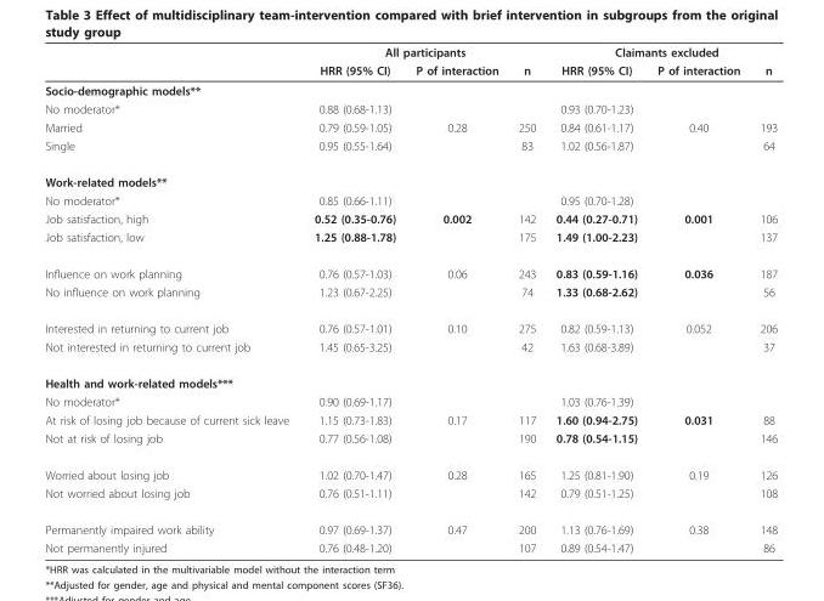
<table><thead><tr><td rowspan="2"></td><td colspan="3">All participants</td><td colspan="3">Claimants excluded</td></tr><tr><td>HRR (95% CI)</td><td>P of interaction</td><td>n</td><td>HRR (95% CI)</td><td>P of interaction</td><td>n</td></tr></thead><tbody><tr><td colspan="7">Socio-demographic models**</td></tr><tr><td>No moderator*</td><td>0.88 (0.68-1.13)</td><td></td><td></td><td>0.93 (0.70-1.23)</td><td></td><td></td></tr><tr><td>Married</td><td>0.79 (0.59-1.05)</td><td>0.28</td><td>250</td><td>0.84 (0.61-1.17)</td><td>0.40</td><td>193</td></tr><tr><td>Single</td><td>0.95 (0.55-1.64)</td><td></td><td>83</td><td>1.02 (0.56-1.87)</td><td></td><td>64</td></tr><tr><td colspan="7">Work-related models**</td></tr><tr><td>No moderator*</td><td>0.85 (0.66-1.11)</td><td></td><td></td><td>0.95 (0.70-1.28)</td><td></td><td></td></tr><tr><td>Job satisfaction, high</td><td>0.52 (0.35-0.76)</td><td>0.002</td><td>142</td><td>0.44 (0.27-0.71)</td><td>0.001</td><td>106</td></tr><tr><td>Job satisfaction, low</td><td>1.25 (0.88-1.78)</td><td></td><td>175</td><td>1.49 (1.00-2.23)</td><td></td><td>137</td></tr><tr><td>Influence on work planning</td><td>0.76 (0.57-1.03)</td><td>0.06</td><td>243</td><td>0.83 (0.59-1.16)</td><td>0.036</td><td>187</td></tr><tr><td>No influence on work planning</td><td>1.23 (0.67-2.25)</td><td></td><td>74</td><td>1.33 (0.68-2.62)</td><td></td><td>56</td></tr><tr><td>Interested in returning to current job</td><td>0.76 (0.57-1.01)</td><td>0.10</td><td>275</td><td>0.82 (0.59-1.13)</td><td>0.052</td><td>206</td></tr><tr><td>Not interested in returning to current job</td><td>1.45 (0.65-3.25)</td><td></td><td>42</td><td>1.63 (0.68-3.89)</td><td></td><td>37</td></tr><tr><td colspan="7">Health and work-related models***</td></tr><tr><td>No moderator*</td><td>0.90 (0.69-1.17)</td><td></td><td></td><td>1.03 (0.76-1.39)</td><td></td><td></td></tr><tr><td>At risk of losing job because of current sick leave</td><td>1.15 (0.73-1.83)</td><td>0.17</td><td>117</td><td>1.60 (0.94-2.75)</td><td>0.031</td><td>88</td></tr><tr><td>Not at risk of losing job</td><td>0.77 (0.56-1.08)</td><td></td><td>190</td><td>0.78 (0.54-1.15)</td><td></td><td>146</td></tr><tr><td>Worried about losing job</td><td>1.02 (0.70-1.47)</td><td>0.28</td><td>165</td><td>1.25 (0.81-1.90)</td><td>0.19</td><td>126</td></tr><tr><td>Not worried about losing job</td><td>0.76 (0.51-1.11)</td><td></td><td>142</td><td>0.79 (0.51-1.25)</td><td></td><td>108</td></tr><tr><td>Permanently impaired work ability</td><td>0.97 (0.69-1.37)</td><td>0.47</td><td>200</td><td>1.13 (0.76-1.69)</td><td>0.38</td><td>148</td></tr><tr><td>Not permanently injured</td><td>0.76 (0.48-1.20)</td><td></td><td>107</td><td>0.89 (0.54-1.47)</td><td></td><td>86</td></tr></tbody></table>